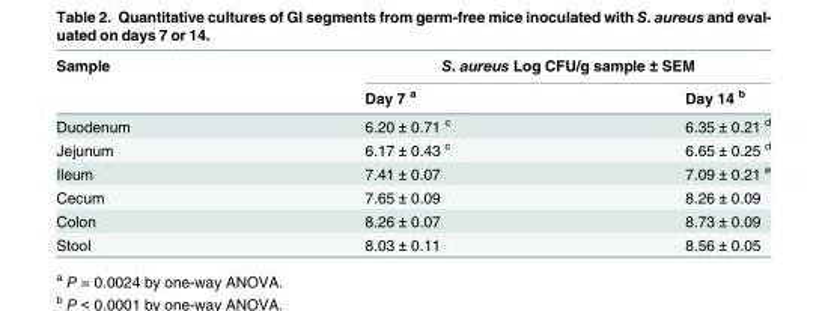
<table><thead><tr><td rowspan="2">Sample</td><td colspan="2">S. aureus Log CFU/g sample ± SEM</td></tr><tr><td>Day 7 <sup>a</sup></td><td>Day 14 <sup>b</sup></td></tr></thead><tbody><tr><td>Duodenum</td><td>6.20 ± 0.71 <sup>c</sup></td><td>6.35 ± 0.21 <sup>d</sup></td></tr><tr><td>Jejunum</td><td>6.17 ± 0.43 <sup>c</sup></td><td>6.65 ± 0.25 <sup>d</sup></td></tr><tr><td>Ileum</td><td>7.41 ± 0.07</td><td>7.09 ± 0.21 <sup>e</sup></td></tr><tr><td>Cecum</td><td>7.65 ± 0.09</td><td>8.26 ± 0.09</td></tr><tr><td>Colon</td><td>8.26 ± 0.07</td><td>8.73 ± 0.09</td></tr><tr><td>Stool</td><td>8.03 ± 0.11</td><td>8.56 ± 0.05</td></tr></tbody></table>